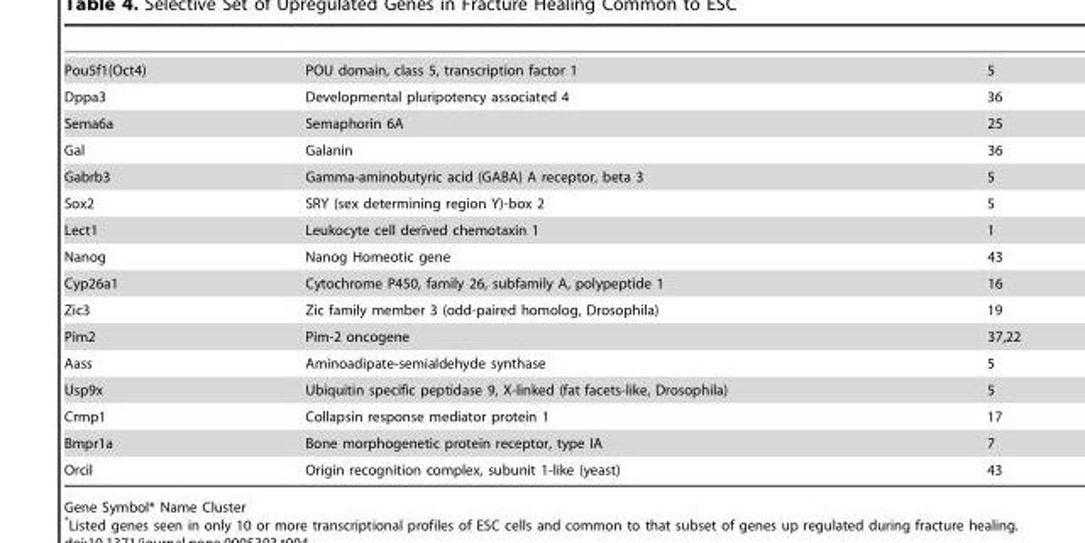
<table><tbody><tr><td>Pou5f1(Oct4)</td><td>POU domain, class 5, transcription factor 1</td><td>5</td></tr><tr><td>Dppa3</td><td>Developmental pluripotency associated 4</td><td>36</td></tr><tr><td>Sema6a</td><td>Semaphorin 6A</td><td>25</td></tr><tr><td>Gal</td><td>Galanin</td><td>36</td></tr><tr><td>Gabrb3</td><td>Gamma-aminobutyric acid (GABA) A receptor, beta 3</td><td>5</td></tr><tr><td>Sox2</td><td>SRY (sex determining region Y)-box 2</td><td>5</td></tr><tr><td>Lect1</td><td>Leukocyte cell derived chemotaxin 1</td><td>1</td></tr><tr><td>Nanog</td><td>Nanog Homeotic gene</td><td>43</td></tr><tr><td>Cyp26a1</td><td>Cytochrome P450, family 26, subfamily A, polypeptide 1</td><td>16</td></tr><tr><td>Zic3</td><td>Zic family member 3 (odd-paired homolog, Drosophila)</td><td>19</td></tr><tr><td>Pim2</td><td>Pim-2 oncogene</td><td>37,22</td></tr><tr><td>Aass</td><td>Aminoadipate-semialdehyde synthase</td><td>5</td></tr><tr><td>Usp9x</td><td>Ubiquitin specific peptidase 9, X-linked (fat facets-like, Drosophila)</td><td>5</td></tr><tr><td>Crmp1</td><td>Collapsin response mediator protein 1</td><td>17</td></tr><tr><td>Bmpr1a</td><td>Bone morphogenetic protein receptor, type IA</td><td>7</td></tr><tr><td>Orcil</td><td>Origin recognition complex, subunit 1-like (yeast)</td><td>43</td></tr></tbody></table>